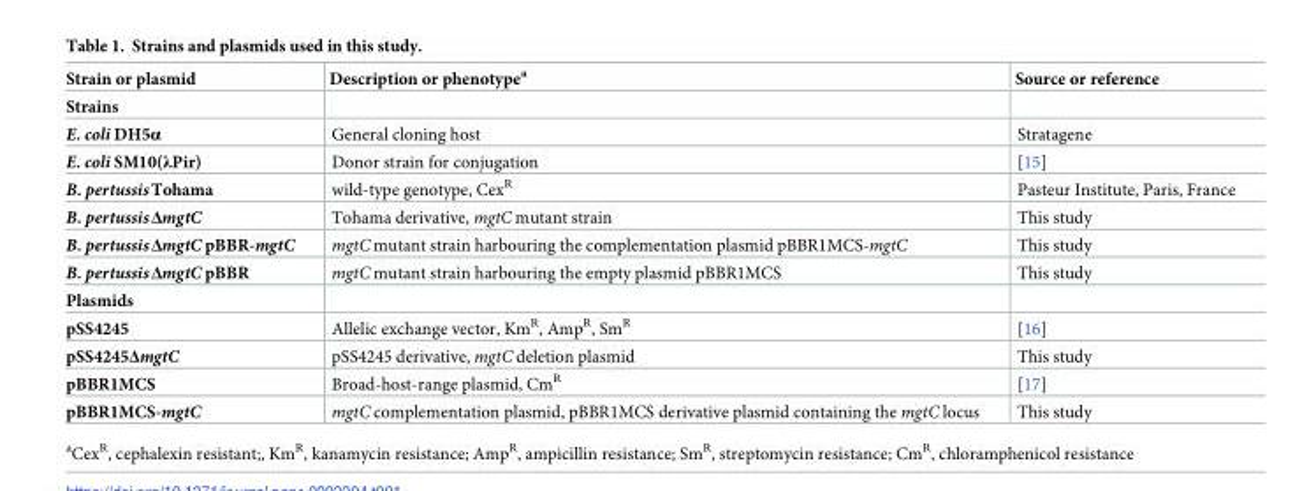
<table><thead><tr><td>Strain or plasmid</td><td>Description or phenotype<sup>a</sup></td><td>Source or reference</td></tr></thead><tbody><tr><td colspan="3">Strains</td></tr><tr><td>E. coli DH5α</td><td>General cloning host</td><td>Stratagene</td></tr><tr><td>E. coli SM10(λPir)</td><td>Donor strain for conjugation</td><td>[15]</td></tr><tr><td>B. pertussisTohama</td><td>wild-type genotype, Cex<sup>R</sup></td><td>Pasteur Institute, Paris, France</td></tr><tr><td>B. pertussisΔmgtC</td><td>Tohama derivative, mgtC mutant strain</td><td>This study</td></tr><tr><td>B. pertussisΔmgtC pBBR-mgtC</td><td>mgtC mutant strain harbouring the complementation plasmid pBBR1MCS-mgtC</td><td>This study</td></tr><tr><td>B. pertussisΔmgtC pBBR</td><td>mgtC mutant strain harbouring the empty plasmid pBBR1MCS</td><td>This study</td></tr><tr><td colspan="3">Plasmids</td></tr><tr><td>pSS4245</td><td>Allelic exchange vector, Km<sup>R</sup>, Amp<sup>R</sup>, Sm<sup>R</sup></td><td>[16]</td></tr><tr><td>pSS4245ΔmgtC</td><td>pSS4245 derivative, mgtC deletion plasmid</td><td>This study</td></tr><tr><td>pBBR1MCS</td><td>Broad-host-range plasmid, Cm<sup>R</sup></td><td>[17]</td></tr><tr><td>pBBR1MCS-mgtC</td><td>mgtC complementation plasmid, pBBR1MCS derivative plasmid containing the mgtC locus</td><td>This study</td></tr></tbody></table>